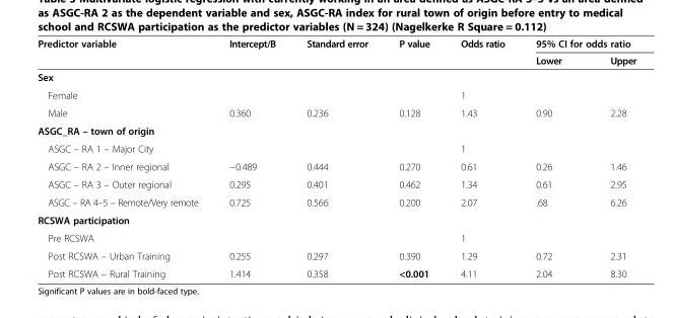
<table><thead><tr><td rowspan="2">Predictor variable</td><td rowspan="2">Intercept/B</td><td rowspan="2">Standard error</td><td rowspan="2">P value</td><td rowspan="2">Odds ratio</td><td colspan="2">95% CI for odds ratio</td></tr><tr><td>Lower</td><td>Upper</td></tr></thead><tbody><tr><td colspan="7">Sex</td></tr><tr><td>Female</td><td></td><td></td><td></td><td>1</td><td></td><td></td></tr><tr><td>Male</td><td>0.360</td><td>0.236</td><td>0.128</td><td>1.43</td><td>0.90</td><td>2.28</td></tr><tr><td colspan="7">ASGC_RA – town of origin</td></tr><tr><td>ASGC – RA 1 – Major City</td><td></td><td></td><td></td><td>1</td><td></td><td></td></tr><tr><td>ASGC – RA 2 – Inner regional</td><td>−0.489</td><td>0.444</td><td>0.270</td><td>0.61</td><td>0.26</td><td>1.46</td></tr><tr><td>ASGC – RA 3 – Outer regional</td><td>0.295</td><td>0.401</td><td>0.462</td><td>1.34</td><td>0.61</td><td>2.95</td></tr><tr><td>ASGC – RA 4–5 – Remote/Very remote</td><td>0.725</td><td>0.566</td><td>0.200</td><td>2.07</td><td>.68</td><td>6.26</td></tr><tr><td colspan="7">RCSWA participation</td></tr><tr><td>Pre RCSWA</td><td></td><td></td><td></td><td>1</td><td></td><td></td></tr><tr><td>Post RCSWA – Urban Training</td><td>0.255</td><td>0.297</td><td>0.390</td><td>1.29</td><td>0.72</td><td>2.31</td></tr><tr><td>Post RCSWA – Rural Training</td><td>1.414</td><td>0.358</td><td>&lt;0.001</td><td>4.11</td><td>2.04</td><td>8.30</td></tr></tbody></table>